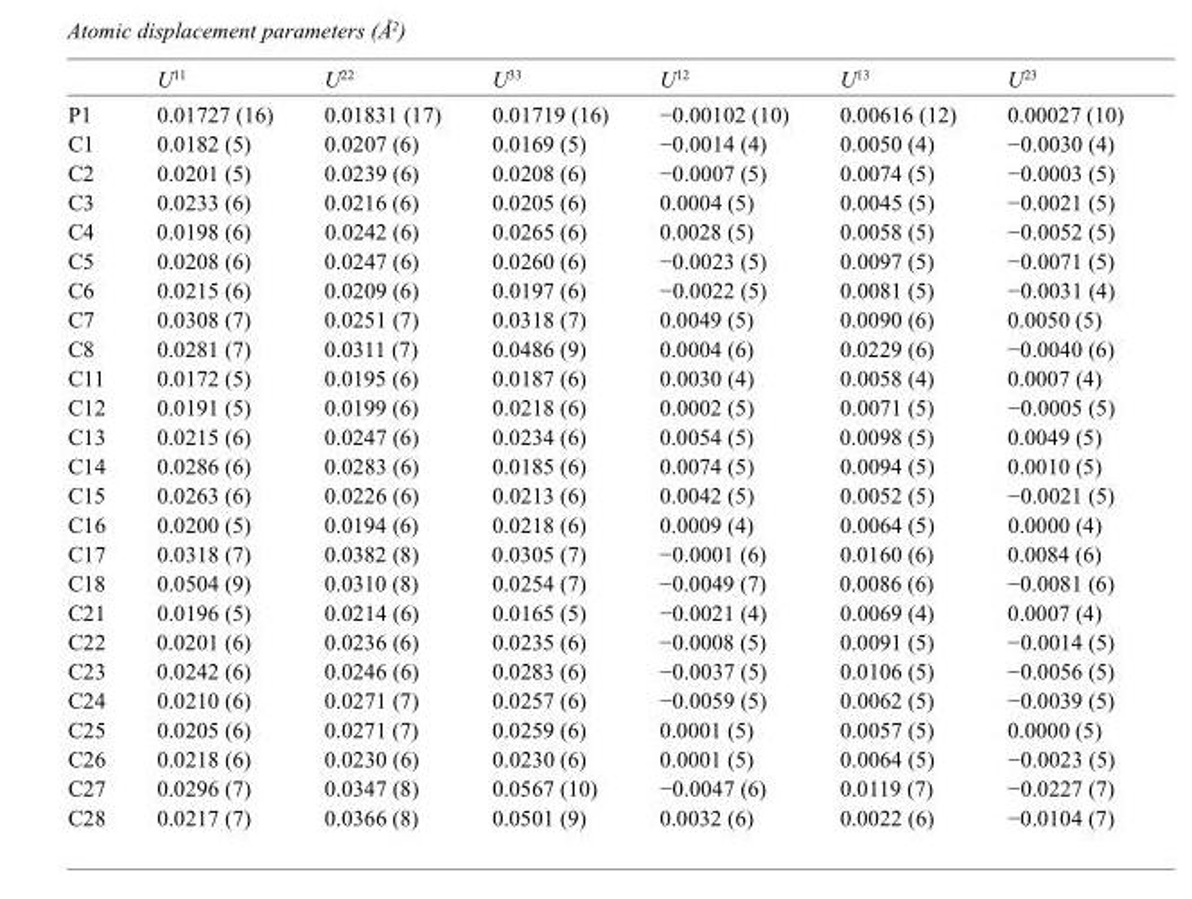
<table><thead><tr><td></td><td>U<sup>11</sup></td><td>U<sup>22</sup></td><td>U<sup>33</sup></td><td>U<sup>12</sup></td><td>U<sup>13</sup></td><td>U<sup>23</sup></td></tr></thead><tbody><tr><td>P1</td><td>0.01727 (16)</td><td>0.01831 (17)</td><td>0.01719 (16)</td><td>−0.00102 (10)</td><td>0.00616 (12)</td><td>0.00027 (10)</td></tr><tr><td>C1</td><td>0.0182 (5)</td><td>0.0207 (6)</td><td>0.0169 (5)</td><td>−0.0014 (4)</td><td>0.0050 (4)</td><td>−0.0030 (4)</td></tr><tr><td>C2</td><td>0.0201 (5)</td><td>0.0239 (6)</td><td>0.0208 (6)</td><td>−0.0007 (5)</td><td>0.0074 (5)</td><td>−0.0003 (5)</td></tr><tr><td>C3</td><td>0.0233 (6)</td><td>0.0216 (6)</td><td>0.0205 (6)</td><td>0.0004 (5)</td><td>0.0045 (5)</td><td>−0.0021 (5)</td></tr><tr><td>C4</td><td>0.0198 (6)</td><td>0.0242 (6)</td><td>0.0265 (6)</td><td>0.0028 (5)</td><td>0.0058 (5)</td><td>−0.0052 (5)</td></tr><tr><td>C5</td><td>0.0208 (6)</td><td>0.0247 (6)</td><td>0.0260 (6)</td><td>−0.0023 (5)</td><td>0.0097 (5)</td><td>−0.0071 (5)</td></tr><tr><td>C6</td><td>0.0215 (6)</td><td>0.0209 (6)</td><td>0.0197 (6)</td><td>−0.0022 (5)</td><td>0.0081 (5)</td><td>−0.0031 (4)</td></tr><tr><td>C7</td><td>0.0308 (7)</td><td>0.0251 (7)</td><td>0.0318 (7)</td><td>0.0049 (5)</td><td>0.0090 (6)</td><td>0.0050 (5)</td></tr><tr><td>C8</td><td>0.0281 (7)</td><td>0.0311 (7)</td><td>0.0486 (9)</td><td>0.0004 (6)</td><td>0.0229 (6)</td><td>−0.0040 (6)</td></tr><tr><td>C11</td><td>0.0172 (5)</td><td>0.0195 (6)</td><td>0.0187 (6)</td><td>0.0030 (4)</td><td>0.0058 (4)</td><td>0.0007 (4)</td></tr><tr><td>C12</td><td>0.0191 (5)</td><td>0.0199 (6)</td><td>0.0218 (6)</td><td>0.0002 (5)</td><td>0.0071 (5)</td><td>−0.0005 (5)</td></tr><tr><td>C13</td><td>0.0215 (6)</td><td>0.0247 (6)</td><td>0.0234 (6)</td><td>0.0054 (5)</td><td>0.0098 (5)</td><td>0.0049 (5)</td></tr><tr><td>C14</td><td>0.0286 (6)</td><td>0.0283 (6)</td><td>0.0185 (6)</td><td>0.0074 (5)</td><td>0.0094 (5)</td><td>0.0010 (5)</td></tr><tr><td>C15</td><td>0.0263 (6)</td><td>0.0226 (6)</td><td>0.0213 (6)</td><td>0.0042 (5)</td><td>0.0052 (5)</td><td>−0.0021 (5)</td></tr><tr><td>C16</td><td>0.0200 (5)</td><td>0.0194 (6)</td><td>0.0218 (6)</td><td>0.0009 (4)</td><td>0.0064 (5)</td><td>0.0000 (4)</td></tr><tr><td>C17</td><td>0.0318 (7)</td><td>0.0382 (8)</td><td>0.0305 (7)</td><td>−0.0001 (6)</td><td>0.0160 (6)</td><td>0.0084 (6)</td></tr><tr><td>C18</td><td>0.0504 (9)</td><td>0.0310 (8)</td><td>0.0254 (7)</td><td>−0.0049 (7)</td><td>0.0086 (6)</td><td>−0.0081 (6)</td></tr><tr><td>C21</td><td>0.0196 (5)</td><td>0.0214 (6)</td><td>0.0165 (5)</td><td>−0.0021 (4)</td><td>0.0069 (4)</td><td>0.0007 (4)</td></tr><tr><td>C22</td><td>0.0201 (6)</td><td>0.0236 (6)</td><td>0.0235 (6)</td><td>−0.0008 (5)</td><td>0.0091 (5)</td><td>−0.0014 (5)</td></tr><tr><td>C23</td><td>0.0242 (6)</td><td>0.0246 (6)</td><td>0.0283 (6)</td><td>−0.0037 (5)</td><td>0.0106 (5)</td><td>−0.0056 (5)</td></tr><tr><td>C24</td><td>0.0210 (6)</td><td>0.0271 (7)</td><td>0.0257 (6)</td><td>−0.0059 (5)</td><td>0.0062 (5)</td><td>−0.0039 (5)</td></tr><tr><td>C25</td><td>0.0205 (6)</td><td>0.0271 (7)</td><td>0.0259 (6)</td><td>0.0001 (5)</td><td>0.0057 (5)</td><td>0.0000 (5)</td></tr><tr><td>C26</td><td>0.0218 (6)</td><td>0.0230 (6)</td><td>0.0230 (6)</td><td>0.0001 (5)</td><td>0.0064 (5)</td><td>−0.0023 (5)</td></tr><tr><td>C27</td><td>0.0296 (7)</td><td>0.0347 (8)</td><td>0.0567 (10)</td><td>−0.0047 (6)</td><td>0.0119 (7)</td><td>−0.0227 (7)</td></tr><tr><td>C28</td><td>0.0217 (7)</td><td>0.0366 (8)</td><td>0.0501 (9)</td><td>0.0032 (6)</td><td>0.0022 (6)</td><td>−0.0104 (7)</td></tr></tbody></table>